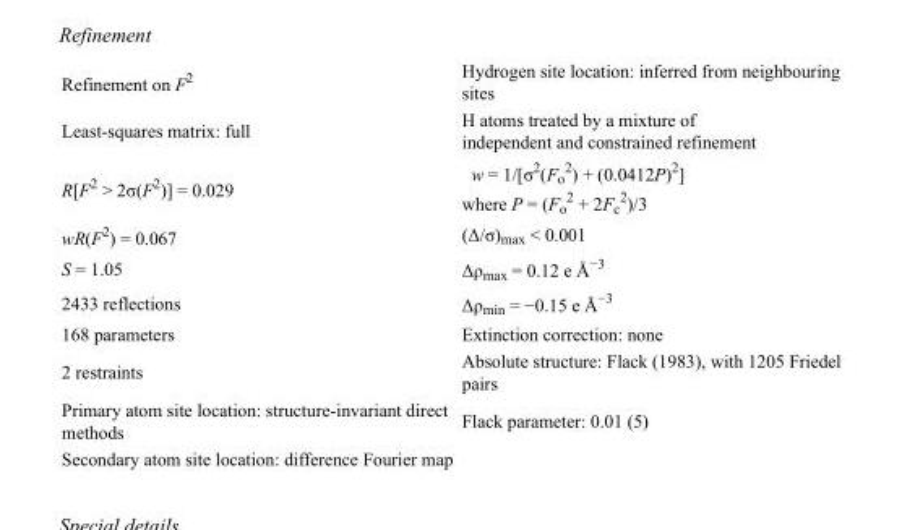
<table><tbody><tr><td>Refinement on F<sup>2</sup></td><td>Hydrogen site location: inferred from neighbouring sites</td></tr><tr><td>Least-squares matrix: full</td><td>H atoms treated by a mixture of independent and constrained refinement</td></tr><tr><td>R[F<sup>2</sup> &gt; 2σ(F<sup>2</sup>)] = 0.029</td><td>w = 1/[σ<sup>2</sup>(F<sub>o</sub> <sup>2</sup>) + (0.0412P)<sup>2</sup>] where P = (F<sub>o</sub> <sup>2</sup> + 2F<sub>c</sub> <sup>2</sup>)/3</td></tr><tr><td>wR(F<sup>2</sup>) = 0.067</td><td>(Δ/σ)<sub>max</sub> &lt; 0.001</td></tr><tr><td>S = 1.05</td><td>Δρ<sub>max</sub> = 0.12 e Å<sup>−3</sup></td></tr><tr><td>2433 reflections</td><td>Δρ<sub>min</sub> = −0.15 e Å<sup>−3</sup></td></tr><tr><td>168 parameters</td><td>Extinction correction: none</td></tr><tr><td>2 restraints</td><td>Absolute structure: Flack (1983), with 1205 Friedel pairs</td></tr><tr><td>Primary atom site location: structure-invariant direct methods</td><td>Flack parameter: 0.01 (5)</td></tr><tr><td>Secondary atom site location: difference Fourier map</td><td></td></tr></tbody></table>